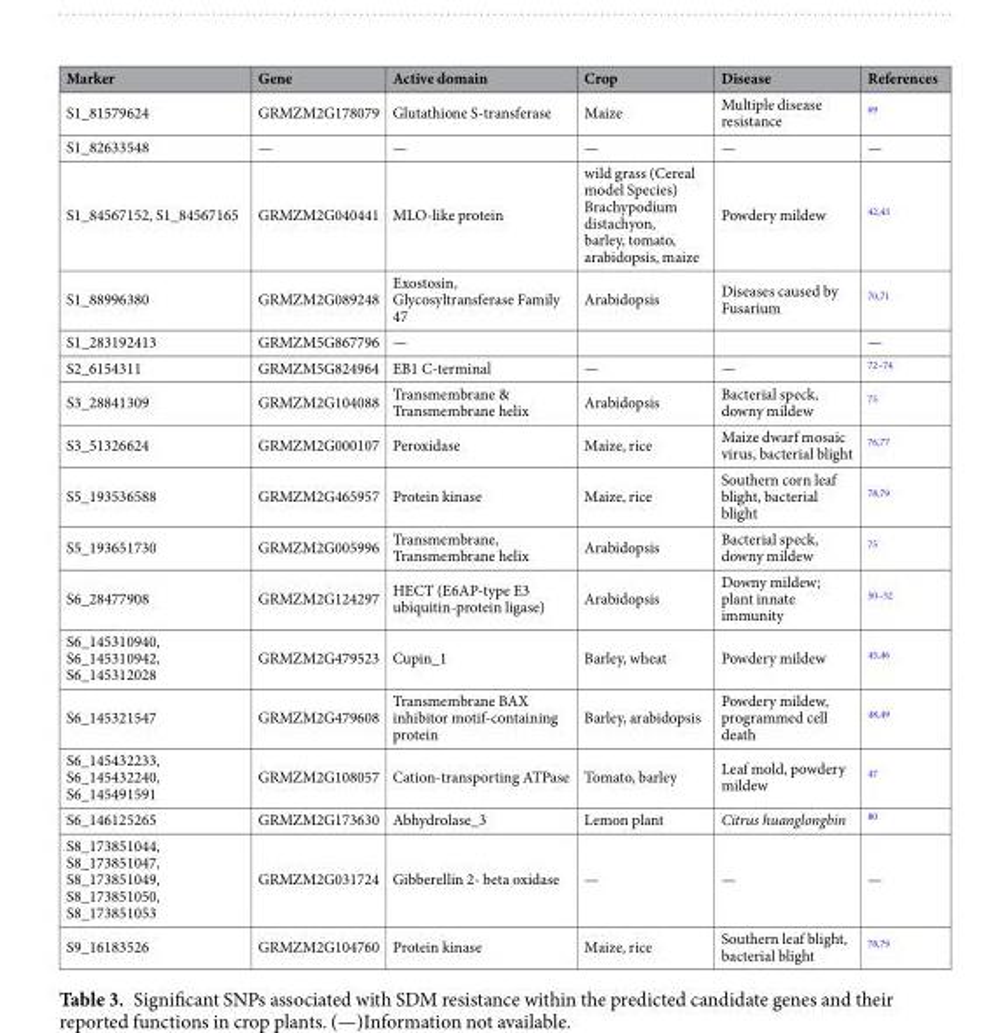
<table><thead><tr><td>Marker</td><td>Gene</td><td>Active domain</td><td>Crop</td><td>Disease</td><td>References</td></tr></thead><tbody><tr><td>S1_81579624</td><td>GRMZM2G178079</td><td>Glutathione S-transferase</td><td>Maize</td><td>Multiple disease resistance</td><td><sup>69</sup></td></tr><tr><td>S1_82633548</td><td>—</td><td>—</td><td>—</td><td>—</td><td>—</td></tr><tr><td>S1_84567152, S1_84567165</td><td>GRMZM2G040441</td><td>MLO-like protein</td><td>wild grass (Cereal model Species) Brachypodium distachyon, barley, tomato, arabidopsis, maize</td><td>Powdery mildew</td><td><sup>42,43</sup></td></tr><tr><td>S1_88996380</td><td>GRMZM2G089248</td><td>Exostosin, Glycosyltransferase Family 47</td><td>Arabidopsis</td><td>Diseases caused by Fusarium</td><td><sup>70,71</sup></td></tr><tr><td>S1_283192413</td><td>GRMZM5G867796</td><td>—</td><td></td><td></td><td>—</td></tr><tr><td>S2_6154311</td><td>GRMZM5G824964</td><td>EB1 C-terminal</td><td>—</td><td>—</td><td><sup>72–74</sup></td></tr><tr><td>S3_28841309</td><td>GRMZM2G104088</td><td>Transmembrane &amp; Transmembrane helix</td><td>Arabidopsis</td><td>Bacterial speck, downy mildew</td><td><sup>75</sup></td></tr><tr><td>S3_51326624</td><td>GRMZM2G000107</td><td>Peroxidase</td><td>Maize, rice</td><td>Maize dwarf mosaic virus, bacterial blight</td><td><sup>76,77</sup></td></tr><tr><td>S5_193536588</td><td>GRMZM2G465957</td><td>Protein kinase</td><td>Maize, rice</td><td>Southern corn leaf blight, bacterial blight</td><td><sup>78,79</sup></td></tr><tr><td>S5_193651730</td><td>GRMZM2G005996</td><td>Transmembrane, Transmembrane helix</td><td>Arabidopsis</td><td>Bacterial speck, downy mildew</td><td><sup>75</sup></td></tr><tr><td>S6_28477908</td><td>GRMZM2G124297</td><td>HECT (E6AP-type E3 ubiquitin-protein ligase)</td><td>Arabidopsis</td><td>Downy mildew; plant innate immunity</td><td><sup>50–52</sup></td></tr><tr><td>S6_145310940, S6_145310942, S6_145312028</td><td>GRMZM2G479523</td><td>Cupin_1</td><td>Barley, wheat</td><td>Powdery mildew</td><td><sup>45,46</sup></td></tr><tr><td>S6_145321547</td><td>GRMZM2G479608</td><td>Transmembrane BAX inhibitor motif-containing protein</td><td>Barley, arabidopsis</td><td>Powdery mildew, programmed cell death</td><td><sup>48,49</sup></td></tr><tr><td>S6_145432233, S6_145432240, S6_145491591</td><td>GRMZM2G108057</td><td>Cation-transporting ATPase</td><td>Tomato, barley</td><td>Leaf mold, powdery mildew</td><td><sup>47</sup></td></tr><tr><td>S6_146125265</td><td>GRMZM2G173630</td><td>Abhydrolase_3</td><td>Lemon plant</td><td>Citrus huanglongbin</td><td><sup>80</sup></td></tr><tr><td>S8_173851044, S8_173851047, S8_173851049, S8_173851050, S8_173851053</td><td>GRMZM2G031724</td><td>Gibberellin 2- beta oxidase</td><td>—</td><td>—</td><td>—</td></tr><tr><td>S9_16183526</td><td>GRMZM2G104760</td><td>Protein kinase</td><td>Maize, rice</td><td>Southern leaf blight, bacterial blight</td><td><sup>78,79</sup></td></tr></tbody></table>